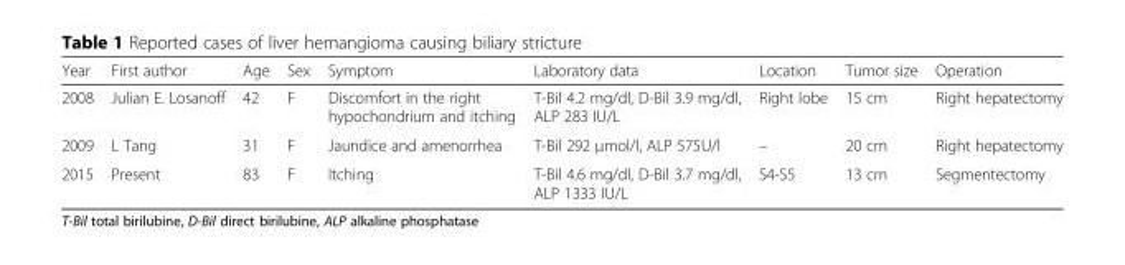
<table><thead><tr><td>Year</td><td>First author</td><td>Age</td><td>Sex</td><td>Symptom</td><td>Laboratory data</td><td>Location</td><td>Tumor size</td><td>Operation</td></tr></thead><tbody><tr><td>2008</td><td>Julian E. Losanoff</td><td>42</td><td>F</td><td>Discomfort in the right hypochondrium and itching</td><td>T-Bil 4.2 mg/dl, D-Bil 3.9 mg/dl, ALP 283 IU/L</td><td>Right lobe</td><td>15 cm</td><td>Right hepatectomy</td></tr><tr><td>2009</td><td>L Tang</td><td>31</td><td>F</td><td>Jaundice and amenorrhea</td><td>T-Bil 292 μmol/l, ALP 575U/l</td><td>–</td><td>20 cm</td><td>Right hepatectomy</td></tr><tr><td>2015</td><td>Present</td><td>83</td><td>F</td><td>Itching</td><td>T-Bil 4.6 mg/dl, D-Bil 3.7 mg/dl, ALP 1333 IU/L</td><td>S4-S5</td><td>13 cm</td><td>Segmentectomy</td></tr></tbody></table>